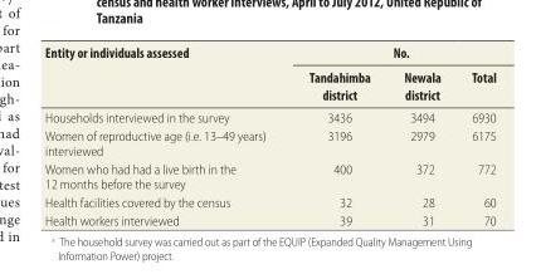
<table><thead><tr><td rowspan="2">Entity or individuals assessed</td><td colspan="3">No.</td></tr><tr><td>Tandahimba district</td><td>Newala district</td><td>Total</td></tr></thead><tbody><tr><td>Households interviewed in the survey</td><td>3436</td><td>3494</td><td>6930</td></tr><tr><td>Women of reproductive age (i.e. 13–49 years) interviewed</td><td>3196</td><td>2979</td><td>6175</td></tr><tr><td>Women who had had a live birth in the 12 months before the survey</td><td>400</td><td>372</td><td>772</td></tr><tr><td>Health facilities covered by the census</td><td>32</td><td>28</td><td>60</td></tr><tr><td>Health workers interviewed</td><td>39</td><td>31</td><td>70</td></tr></tbody></table>